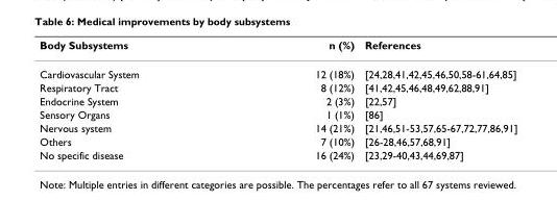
<table><thead><tr><td>Body Subsystems</td><td>n (%)</td><td>References</td></tr></thead><tbody><tr><td>Cardiovascular System</td><td>12 (18%)</td><td>[24,28,41,42,45,46,50,58-61,64,85]</td></tr><tr><td>Respiratory Tract</td><td>8 (12%)</td><td>[41,42,45,46,48,49,62,88,91]</td></tr><tr><td>Endocrine System</td><td>2 (3%)</td><td>[22,57]</td></tr><tr><td>Sensory Organs</td><td>1 (1%)</td><td>[86]</td></tr><tr><td>Nervous system</td><td>14 (21%)</td><td>[21,46,51-53,57,65-67,72,77,86,91]</td></tr><tr><td>Others</td><td>7 (10%)</td><td>[26-28,46,57,68,91]</td></tr><tr><td>No specific disease</td><td>16 (24%)</td><td>[23,29-40,43,44,69,87]</td></tr></tbody></table>